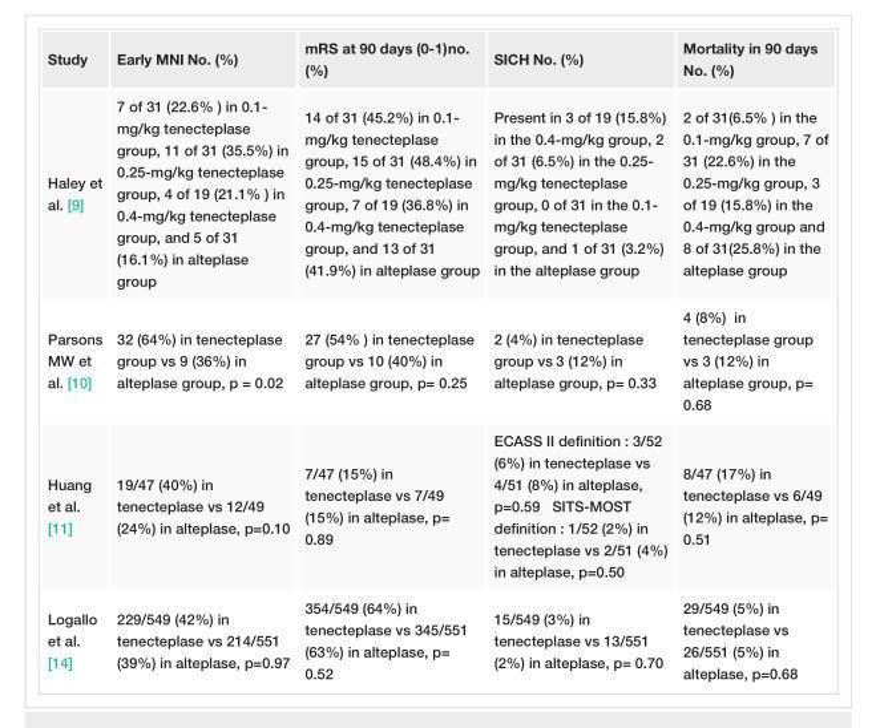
<table><tbody><tr><td>Study</td><td>Early MNI No. (%)</td><td>mRS at 90 days (0-1) no. (%)</td><td>SICH No. (%)</td><td>Mortality in 90 days No. (%)</td></tr><tr><td>Haley et al. [9]</td><td>7 of 31 (22.6% ) in 0.1- mg/kg tenecteplase group, 11 of 31 (35.5%) in 0.25-mg/kg tenecteplase group, 4 of 19 (21.1% ) in 0.4-mg/kg tenecteplase group, and 5 of 31 (16.1%) in alteplase group</td><td>14 of 31 (45.2%) in 0.1- mg/kg tenecteplase group, 15 of 31 (48.4%) in 0.25-mg/kg tenecteplase group, 7 of 19 (36.8%) in 0.4-mg/kg tenecteplase group, and 13 of 31 (41.9%) in alteplase group</td><td>Present in 3 of 19 (15.8%) in the 0.4-mg/kg group, 2 of 31 (6.5%) in the 0.25- mg/kg tenecteplase group, 0 of 31 in the 0.1- mg/kg tenecteplase group, and 1 of 31 (3.2%) in the alteplase group</td><td>2 of 31(6.5% ) in the 0.1-mg/kg group, 7 of 31 (22.6%) in the 0.25-mg/kg group, 3 of 19 (15.8%) in the 0.4-mg/kg group and 8 of 31(25.8%) in the alteplase group</td></tr><tr><td>Parsons MW et al. [10]</td><td>32 (64%) in tenecteplase group vs 9 (36%) in alteplase group, p = 0.02</td><td>27 (54% ) in tenecteplase group vs 10 (40%) in alteplase group, p= 0.25</td><td>2 (4%) in tenecteplase group vs 3 (12%) in alteplase group, p= 0.33</td><td>4 (8%) in tenecteplase group vs 3 (12%) in alteplase group, p= 0.68</td></tr><tr><td>Huang et al. [11]</td><td>19/47 (40%) in tenecteplase vs 12/49 (24%) in alteplase, p=0.10</td><td>7/47 (15%) in tenecteplase vs 7/49 (15%) in alteplase, p= 0.89</td><td>ECASS II definition : 3/52 (6%) in tenecteplase vs 4/51 (8%) in alteplase, p=0.59 SITS-MOST definition : 1/52 (2%) in tenecteplase vs 2/51 (4%) in alteplase, p=0.50</td><td>8/47 (17%) in tenecteplase vs 6/49 (12%) in alteplase, p= 0.51</td></tr><tr><td>Logallo et al. [14]</td><td>229/549 (42%) in tenecteplase vs 214/551 (39%) in alteplase, p=0.97</td><td>354/549 (64%) in tenecteplase vs 345/551 (63%) in alteplase, p= 0.52</td><td>15/549 (3%) in tenecteplase vs 13/551 (2%) in alteplase, p= 0.70</td><td>29/549 (5%) in tenecteplase vs 26/551 (5%) in alteplase, p=0.68</td></tr></tbody></table>